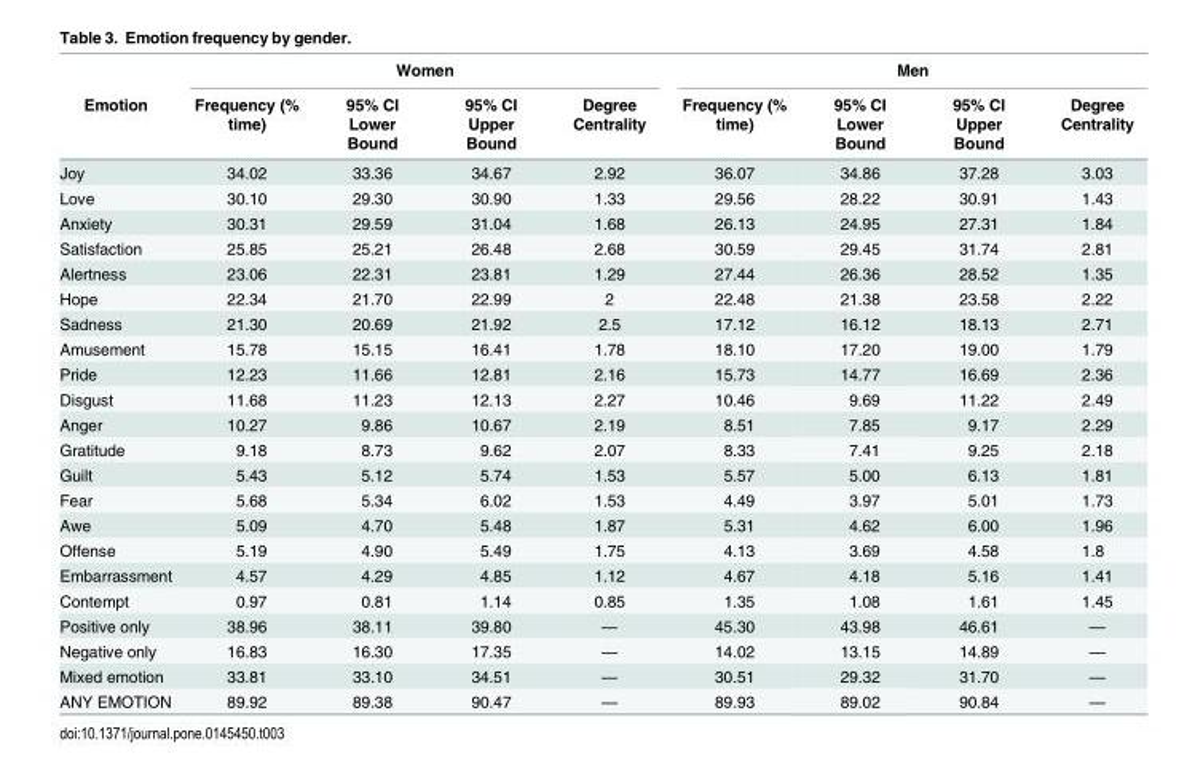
<table><thead><tr><td rowspan="2">Emotion</td><td colspan="4">Women</td><td colspan="4">Men</td></tr><tr><td>Frequency (% time)</td><td>95% CI Lower Bound</td><td>95% CI Upper Bound</td><td>Degree Centrality</td><td>Frequency (% time)</td><td>95% CI Lower Bound</td><td>95% CI Upper Bound</td><td>Degree Centrality</td></tr></thead><tbody><tr><td>Joy</td><td>34.02</td><td>33.36</td><td>34.67</td><td>2.92</td><td>36.07</td><td>34.86</td><td>37.28</td><td>3.03</td></tr><tr><td>Love</td><td>30.10</td><td>29.30</td><td>30.90</td><td>1.33</td><td>29.56</td><td>28.22</td><td>30.91</td><td>1.43</td></tr><tr><td>Anxiety</td><td>30.31</td><td>29.59</td><td>31.04</td><td>1.68</td><td>26.13</td><td>24.95</td><td>27.31</td><td>1.84</td></tr><tr><td>Satisfaction</td><td>25.85</td><td>25.21</td><td>26.48</td><td>2.68</td><td>30.59</td><td>29.45</td><td>31.74</td><td>2.81</td></tr><tr><td>Alertness</td><td>23.06</td><td>22.31</td><td>23.81</td><td>1.29</td><td>27.44</td><td>26.36</td><td>28.52</td><td>1.35</td></tr><tr><td>Hope</td><td>22.34</td><td>21.70</td><td>22.99</td><td>2</td><td>22.48</td><td>21.38</td><td>23.58</td><td>2.22</td></tr><tr><td>Sadness</td><td>21.30</td><td>20.69</td><td>21.92</td><td>2.5</td><td>17.12</td><td>16.12</td><td>18.13</td><td>2.71</td></tr><tr><td>Amusement</td><td>15.78</td><td>15.15</td><td>16.41</td><td>1.78</td><td>18.10</td><td>17.20</td><td>19.00</td><td>1.79</td></tr><tr><td>Pride</td><td>12.23</td><td>11.66</td><td>12.81</td><td>2.16</td><td>15.73</td><td>14.77</td><td>16.69</td><td>2.36</td></tr><tr><td>Disgust</td><td>11.68</td><td>11.23</td><td>12.13</td><td>2.27</td><td>10.46</td><td>9.69</td><td>11.22</td><td>2.49</td></tr><tr><td>Anger</td><td>10.27</td><td>9.86</td><td>10.67</td><td>2.19</td><td>8.51</td><td>7.85</td><td>9.17</td><td>2.29</td></tr><tr><td>Gratitude</td><td>9.18</td><td>8.73</td><td>9.62</td><td>2.07</td><td>8.33</td><td>7.41</td><td>9.25</td><td>2.18</td></tr><tr><td>Guilt</td><td>5.43</td><td>5.12</td><td>5.74</td><td>1.53</td><td>5.57</td><td>5.00</td><td>6.13</td><td>1.81</td></tr><tr><td>Fear</td><td>5.68</td><td>5.34</td><td>6.02</td><td>1.53</td><td>4.49</td><td>3.97</td><td>5.01</td><td>1.73</td></tr><tr><td>Awe</td><td>5.09</td><td>4.70</td><td>5.48</td><td>1.87</td><td>5.31</td><td>4.62</td><td>6.00</td><td>1.96</td></tr><tr><td>Offense</td><td>5.19</td><td>4.90</td><td>5.49</td><td>1.75</td><td>4.13</td><td>3.69</td><td>4.58</td><td>1.8</td></tr><tr><td>Embarrassment</td><td>4.57</td><td>4.29</td><td>4.85</td><td>1.12</td><td>4.67</td><td>4.18</td><td>5.16</td><td>1.41</td></tr><tr><td>Contempt</td><td>0.97</td><td>0.81</td><td>1.14</td><td>0.85</td><td>1.35</td><td>1.08</td><td>1.61</td><td>1.45</td></tr><tr><td>Positive only</td><td>38.96</td><td>38.11</td><td>39.80</td><td>—</td><td>45.30</td><td>43.98</td><td>46.61</td><td>—</td></tr><tr><td>Negative only</td><td>16.83</td><td>16.30</td><td>17.35</td><td>—</td><td>14.02</td><td>13.15</td><td>14.89</td><td>—</td></tr><tr><td>Mixed emotion</td><td>33.81</td><td>33.10</td><td>34.51</td><td>—</td><td>30.51</td><td>29.32</td><td>31.70</td><td>—</td></tr><tr><td>ANY EMOTION</td><td>89.92</td><td>89.38</td><td>90.47</td><td>—</td><td>89.93</td><td>89.02</td><td>90.84</td><td>—</td></tr></tbody></table>